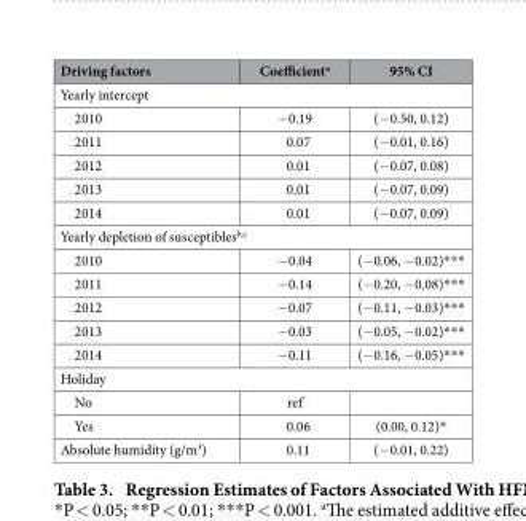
<table><thead><tr><td>Driving factors</td><td>Coefficient<sup>a</sup></td><td>95% CI</td></tr></thead><tbody><tr><td colspan="3">Yearly intercept</td></tr><tr><td>2010</td><td>− 0.19</td><td>(− 0.50, 0.12)</td></tr><tr><td>2011</td><td>0.07</td><td>(− 0.01, 0.16)</td></tr><tr><td>2012</td><td>0.01</td><td>(− 0.07, 0.08)</td></tr><tr><td>2013</td><td>0.01</td><td>(− 0.07, 0.09)</td></tr><tr><td>2014</td><td>0.01</td><td>(− 0.07, 0.09)</td></tr><tr><td colspan="3">Yearly depletion of susceptibles<sup>b,c</sup></td></tr><tr><td>2010</td><td>− 0.04</td><td>(− 0.06, − 0.02)***</td></tr><tr><td>2011</td><td>− 0.14</td><td>(− 0.20, − 0.08)***</td></tr><tr><td>2012</td><td>− 0.07</td><td>(− 0.11, − 0.03)***</td></tr><tr><td>2013</td><td>− 0.03</td><td>(− 0.05, − 0.02)***</td></tr><tr><td>2014</td><td>− 0.11</td><td>(− 0.16, − 0.05)***</td></tr><tr><td colspan="3">Holiday</td></tr><tr><td>No</td><td>ref</td><td></td></tr><tr><td>Yes</td><td>0.06</td><td>(0.00, 0.12)*</td></tr><tr><td>Absolute humidity (g/m<sup>3</sup>)</td><td>0.11</td><td>(− 0.01, 0.22)</td></tr></tbody></table>